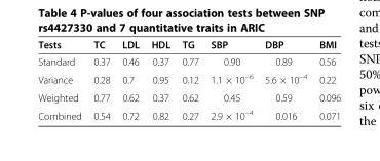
<table><thead><tr><td>Tests</td><td>TC</td><td>LDL</td><td>HDL</td><td>TG</td><td>SBP</td><td>DBP</td><td>BMI</td></tr></thead><tbody><tr><td>Standard</td><td>0.37</td><td>0.46</td><td>0.37</td><td>0.77</td><td>0.90</td><td>0.89</td><td>0.56</td></tr><tr><td>Variance</td><td>0.28</td><td>0.7</td><td>0.95</td><td>0.12</td><td>1.1 × 10<sup>−6</sup></td><td>5.6 × 10<sup>−4</sup></td><td>0.22</td></tr><tr><td>Weighted</td><td>0.77</td><td>0.62</td><td>0.37</td><td>0.62</td><td>0.45</td><td>0.59</td><td>0.096</td></tr><tr><td>Combined</td><td>0.54</td><td>0.72</td><td>0.82</td><td>0.27</td><td>2.9 × 10<sup>−4</sup></td><td>0.016</td><td>0.071</td></tr></tbody></table>